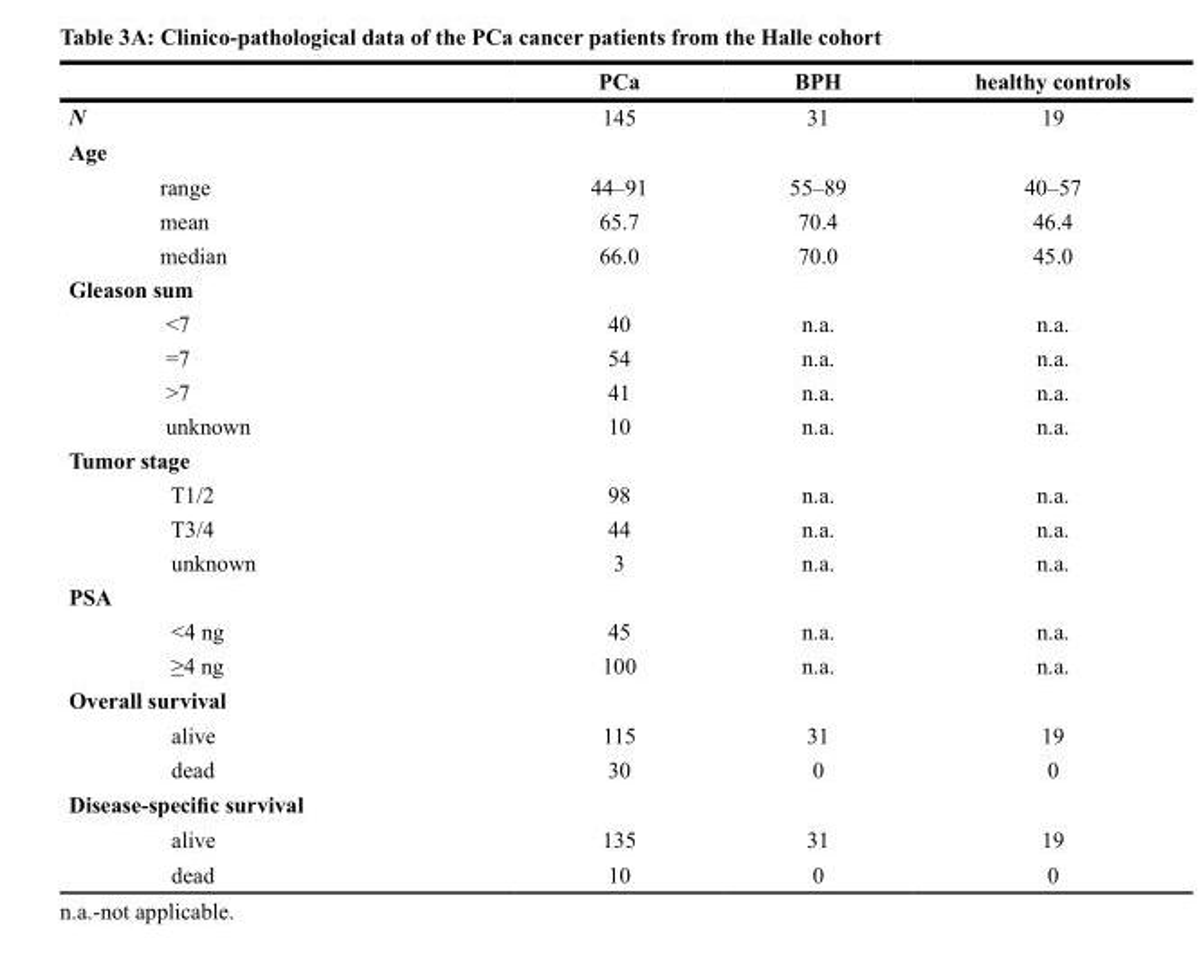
<table><thead><tr><td></td><td>PCa</td><td>BPH</td><td>healthy controls</td></tr></thead><tbody><tr><td>N</td><td>145</td><td>31</td><td>19</td></tr><tr><td colspan="4">Age</td></tr><tr><td>range</td><td>44–91</td><td>55–89</td><td>40–57</td></tr><tr><td>mean</td><td>65.7</td><td>70.4</td><td>46.4</td></tr><tr><td>median</td><td>66.0</td><td>70.0</td><td>45.0</td></tr><tr><td colspan="4">Gleason sum</td></tr><tr><td>&lt;7</td><td>40</td><td>n.a.</td><td>n.a.</td></tr><tr><td>=7</td><td>54</td><td>n.a.</td><td>n.a.</td></tr><tr><td>&gt;7</td><td>41</td><td>n.a.</td><td>n.a.</td></tr><tr><td>unknown</td><td>10</td><td>n.a.</td><td>n.a.</td></tr><tr><td colspan="4">Tumor stage</td></tr><tr><td>T1/2</td><td>98</td><td>n.a.</td><td>n.a.</td></tr><tr><td>T3/4</td><td>44</td><td>n.a.</td><td>n.a.</td></tr><tr><td>unknown</td><td>3</td><td>n.a.</td><td>n.a.</td></tr><tr><td colspan="4">PSA</td></tr><tr><td>&lt;4 ng</td><td>45</td><td>n.a.</td><td>n.a.</td></tr><tr><td>≥4 ng</td><td>100</td><td>n.a.</td><td>n.a.</td></tr><tr><td colspan="4">Overall survival</td></tr><tr><td>alive</td><td>115</td><td>31</td><td>19</td></tr><tr><td>dead</td><td>30</td><td>0</td><td>0</td></tr><tr><td colspan="4">Disease-specific survival</td></tr><tr><td>alive</td><td>135</td><td>31</td><td>19</td></tr><tr><td>dead</td><td>10</td><td>0</td><td>0</td></tr></tbody></table>